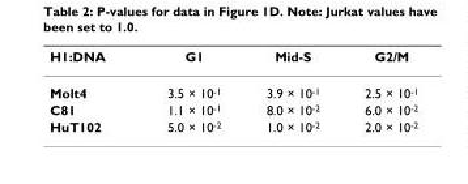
<table><thead><tr><td>H1:DNA</td><td>G1</td><td>Mid-S</td><td>G2/M</td></tr></thead><tbody><tr><td>Molt4</td><td>3.5 × 10<sup>-1</sup></td><td>3.9 × 10<sup>-1</sup></td><td>2.5 × 10<sup>-1</sup></td></tr><tr><td>C81</td><td>1.1 × 10<sup>-1</sup></td><td>8.0 × 10<sup>-2</sup></td><td>6.0 × 10<sup>-2</sup></td></tr><tr><td>HuT102</td><td>5.0 × 10<sup>-2</sup></td><td>1.0 × 10<sup>-2</sup></td><td>2.0 × 10<sup>-2</sup></td></tr></tbody></table>